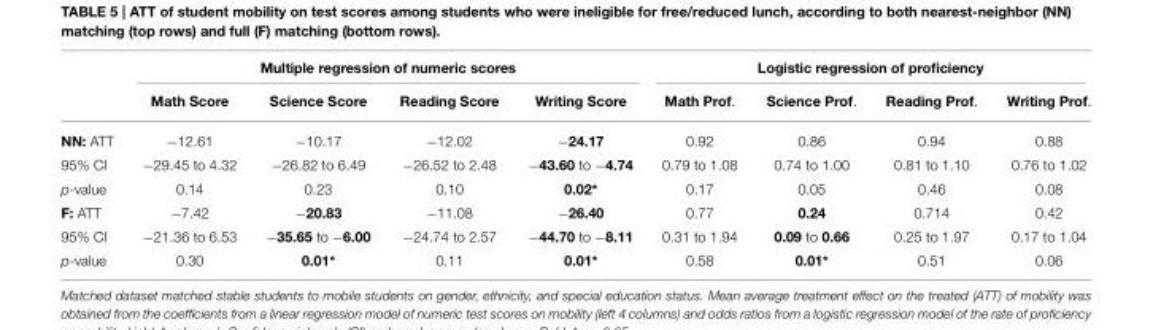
<table><thead><tr><td rowspan="2"></td><td colspan="4">Multiple regression of numeric scores</td><td colspan="4">Logistic regression of proficiency</td></tr><tr><td>Math Score</td><td>Science Score</td><td>Reading Score</td><td>Writing Score</td><td>Math Prof.</td><td>Science Prof.</td><td>Reading Prof.</td><td>Writing Prof.</td></tr></thead><tbody><tr><td>NN: ATT</td><td>−12.61</td><td>−10.17</td><td>−12.02</td><td>−24.17</td><td>0.92</td><td>0.86</td><td>0.94</td><td>0.88</td></tr><tr><td>95% CI</td><td>−29.45 to 4.32</td><td>−26.82 to 6.49</td><td>−26.52 to 2.48</td><td>−43.60 to −4.74</td><td>0.79 to 1.08</td><td>0.74 to 1.00</td><td>0.81 to 1.10</td><td>0.76 to 1.02</td></tr><tr><td>p-value</td><td>0.14</td><td>0.23</td><td>0.10</td><td>0.02*</td><td>0.17</td><td>0.05</td><td>0.46</td><td>0.08</td></tr><tr><td>F: ATT</td><td>−7.42</td><td>−20.83</td><td>−11.08</td><td>−26.40</td><td>0.77</td><td>0.24</td><td>0.714</td><td>0.42</td></tr><tr><td>95% CI</td><td>−21.36 to 6.53</td><td>−35.65 to −6.00</td><td>−24.74 to 2.57</td><td>−44.70 to −8.11</td><td>0.31 to 1.94</td><td>0.09 to 0.66</td><td>0.25 to 1.97</td><td>0.17 to 1.04</td></tr><tr><td>p-value</td><td>0.30</td><td>0.01*</td><td>0.11</td><td>0.01*</td><td>0.58</td><td>0.01*</td><td>0.51</td><td>0.06</td></tr></tbody></table>